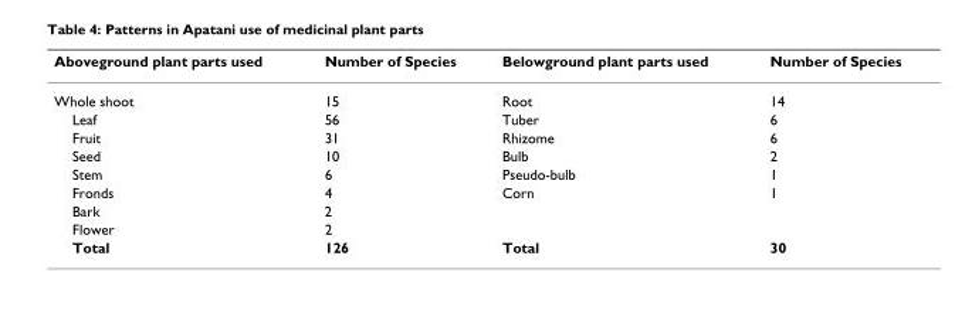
<table><thead><tr><td>Aboveground plant parts used</td><td>Number of Species</td><td>Belowground plant parts used</td><td>Number of Species</td></tr></thead><tbody><tr><td>Whole shoot</td><td>15</td><td>Root</td><td>14</td></tr><tr><td>Leaf</td><td>56</td><td>Tuber</td><td>6</td></tr><tr><td>Fruit</td><td>31</td><td>Rhizome</td><td>6</td></tr><tr><td>Seed</td><td>10</td><td>Bulb</td><td>2</td></tr><tr><td>Stem</td><td>6</td><td>Pseudo-bulb</td><td>1</td></tr><tr><td>Fronds</td><td>4</td><td>Corn</td><td>1</td></tr><tr><td>Bark</td><td>2</td><td></td><td></td></tr><tr><td>Flower</td><td>2</td><td></td><td></td></tr><tr><td>Total</td><td>126</td><td>Total</td><td>30</td></tr></tbody></table>